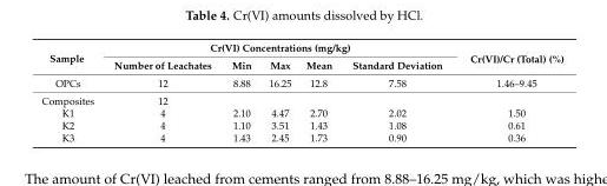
<table><thead><tr><td rowspan="2">Sample</td><td colspan="5">Cr(VI) Concentrations (mg/kg)</td><td rowspan="2">Cr(VI)/Cr (Total) (%)</td></tr><tr><td>Number of Leachates</td><td>Min</td><td>Max</td><td>Mean</td><td>Standard Deviation</td></tr></thead><tbody><tr><td>OPCs</td><td>12</td><td>8.88</td><td>16.25</td><td>12.8</td><td>7.58</td><td>1.46–9.45</td></tr><tr><td>Composites</td><td>12</td><td></td><td></td><td></td><td></td><td></td></tr><tr><td>K1</td><td>4</td><td>2.10</td><td>4.47</td><td>2.70</td><td>2.02</td><td>1.50</td></tr><tr><td>K2</td><td>4</td><td>1.10</td><td>3.51</td><td>1.43</td><td>1.08</td><td>0.61</td></tr><tr><td>K3</td><td>4</td><td>1.43</td><td>2.45</td><td>1.73</td><td>0.90</td><td>0.36</td></tr></tbody></table>